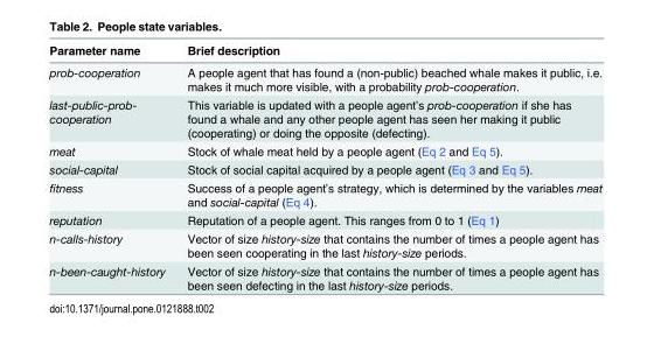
<table><thead><tr><td>Parameter name</td><td>Brief description</td></tr></thead><tbody><tr><td>prob-cooperation</td><td>A people agent that has found a (non-public) beached whale makes it public, i.e. makes it much more visible, with a probability prob-cooperation.</td></tr><tr><td>last-public-prob- cooperation</td><td>This variable is updated with a people agent’s prob-cooperation if she has found a whale and any other people agent has seen her making it public (cooperating) or doing the opposite (defecting).</td></tr><tr><td>meat</td><td>Stock of whale meat held by a people agent (Eq 2 and Eq 5).</td></tr><tr><td>social-capital</td><td>Stock of social capital acquired by a people agent (Eq 3 and Eq 5).</td></tr><tr><td>fitness</td><td>Success of a people agent’s strategy, which is determined by the variables meat and social-capital (Eq 4).</td></tr><tr><td>reputation</td><td>Reputation of a people agent. This ranges from 0 to 1 (Eq 1)</td></tr><tr><td>n-calls-history</td><td>Vector of size history-size that contains the number of times a people agent has been seen cooperating in the last history-size periods.</td></tr><tr><td>n-been-caught-history</td><td>Vector of size history-size that contains the number of times a people agent has been seen defecting in the last history-size periods.</td></tr></tbody></table>